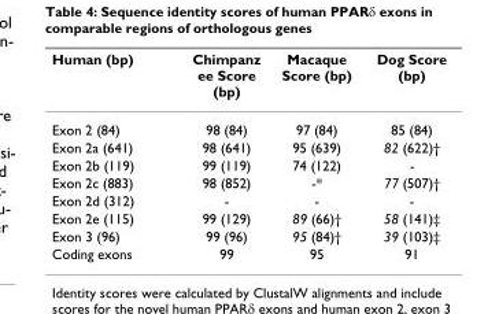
<table><thead><tr><td>Human (bp)</td><td>Chimpanz ee Score (bp)</td><td>Macaque Score (bp)</td><td>Dog Score (bp)</td></tr></thead><tbody><tr><td>Exon 2 (84)</td><td>98 (84)</td><td>97 (84)</td><td>85 (84)</td></tr><tr><td>Exon 2a (641)</td><td>98 (641)</td><td>95 (639)</td><td>82 (622)†</td></tr><tr><td>Exon 2b (119)</td><td>99 (119)</td><td>74 (122)</td><td>-</td></tr><tr><td>Exon 2c (883)</td><td>98 (852)</td><td>-*</td><td>77 (507)†</td></tr><tr><td>Exon 2d (312)</td><td>-</td><td>-</td><td>-</td></tr><tr><td>Exon 2e (115)</td><td>99 (129)</td><td>89 (66)†</td><td>58 (141)‡</td></tr><tr><td>Exon 3 (96)</td><td>99 (96)</td><td>95 (84)†</td><td>39 (103)‡</td></tr><tr><td>Coding exons</td><td>99</td><td>95</td><td>91</td></tr></tbody></table>